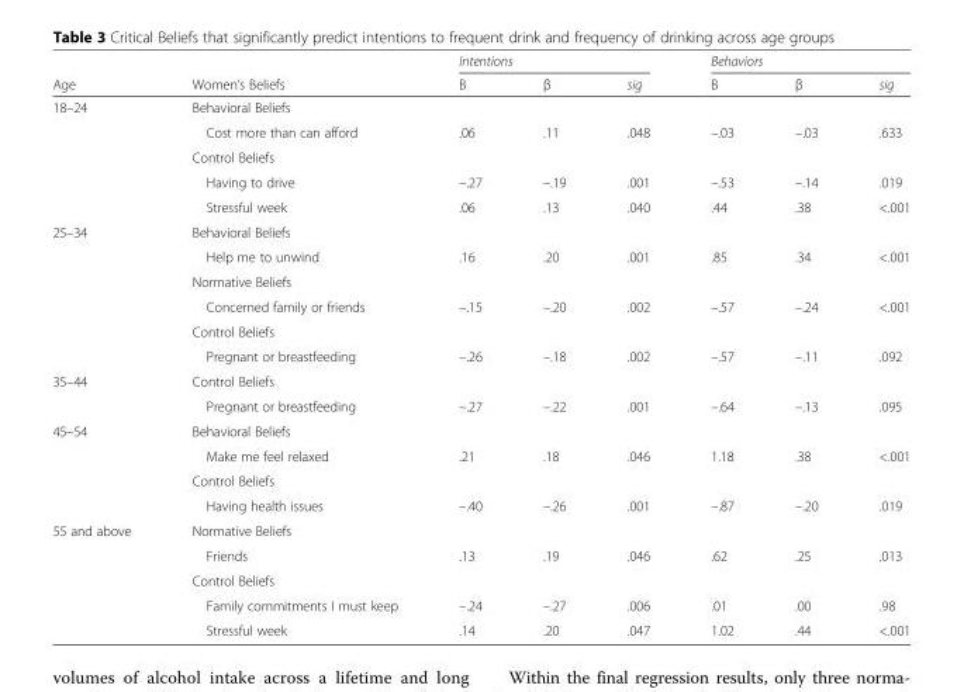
<table><thead><tr><td rowspan="2">Age</td><td rowspan="2">Women’s Beliefs</td><td colspan="3">Intentions</td><td colspan="3">Behaviors</td></tr><tr><td>B</td><td>β</td><td>sig</td><td>B</td><td>β</td><td>sig</td></tr></thead><tbody><tr><td rowspan="5">18–24</td><td>Behavioral Beliefs</td><td></td><td></td><td></td><td></td><td></td><td></td></tr><tr><td>Cost more than can afford</td><td>.06</td><td>.11</td><td>.048</td><td>–.03</td><td>–.03</td><td>.633</td></tr><tr><td>Control Beliefs</td><td></td><td></td><td></td><td></td><td></td><td></td></tr><tr><td>Having to drive</td><td>–.27</td><td>–.19</td><td>.001</td><td>–.53</td><td>–.14</td><td>.019</td></tr><tr><td>Stressful week</td><td>.06</td><td>.13</td><td>.040</td><td>.44</td><td>.38</td><td>&lt;.001</td></tr><tr><td rowspan="6">25–34</td><td>Behavioral Beliefs</td><td></td><td></td><td></td><td></td><td></td><td></td></tr><tr><td>Help me to unwind</td><td>.16</td><td>.20</td><td>.001</td><td>.85</td><td>.34</td><td>&lt;.001</td></tr><tr><td>Normative Beliefs</td><td></td><td></td><td></td><td></td><td></td><td></td></tr><tr><td>Concerned family or friends</td><td>–.15</td><td>–.20</td><td>.002</td><td>–.57</td><td>–.24</td><td>&lt;.001</td></tr><tr><td>Control Beliefs</td><td></td><td></td><td></td><td></td><td></td><td></td></tr><tr><td>Pregnant or breastfeeding</td><td>–.26</td><td>–.18</td><td>.002</td><td>–.57</td><td>–.11</td><td>.092</td></tr><tr><td rowspan="2">35–44</td><td>Control Beliefs</td><td></td><td></td><td></td><td></td><td></td><td></td></tr><tr><td>Pregnant or breastfeeding</td><td>–.27</td><td>–.22</td><td>.001</td><td>–.64</td><td>–.13</td><td>.095</td></tr><tr><td rowspan="4">45–54</td><td>Behavioral Beliefs</td><td></td><td></td><td></td><td></td><td></td><td></td></tr><tr><td>Make me feel relaxed</td><td>.21</td><td>.18</td><td>.046</td><td>1.18</td><td>.38</td><td>&lt;.001</td></tr><tr><td>Control Beliefs</td><td></td><td></td><td></td><td></td><td></td><td></td></tr><tr><td>Having health issues</td><td>–.40</td><td>–.26</td><td>.001</td><td>–.87</td><td>–.20</td><td>.019</td></tr><tr><td rowspan="5">55 and above</td><td>Normative Beliefs</td><td></td><td></td><td></td><td></td><td></td><td></td></tr><tr><td>Friends</td><td>.13</td><td>.19</td><td>.046</td><td>.62</td><td>.25</td><td>.013</td></tr><tr><td>Control Beliefs</td><td></td><td></td><td></td><td></td><td></td><td></td></tr><tr><td>Family commitments I must keep</td><td>–.24</td><td>–.27</td><td>.006</td><td>.01</td><td>.00</td><td>.98</td></tr><tr><td>Stressful week</td><td>.14</td><td>.20</td><td>.047</td><td>1.02</td><td>.44</td><td>&lt;.001</td></tr></tbody></table>